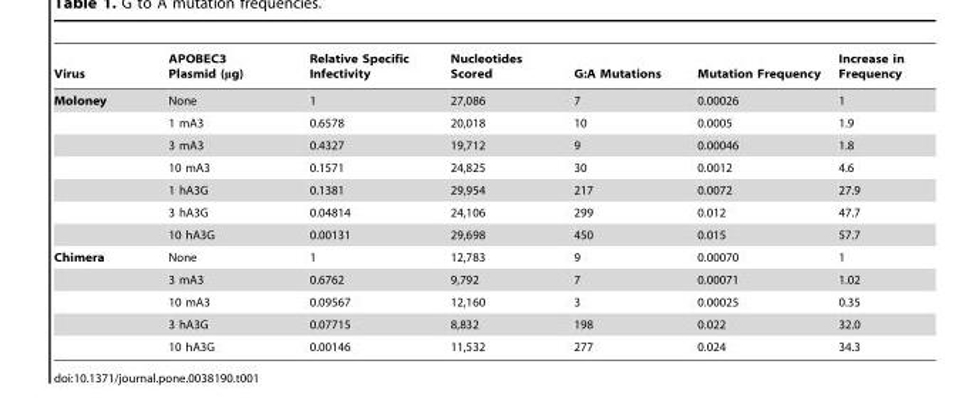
<table><thead><tr><td>Virus</td><td>APOBEC3 Plasmid (μg)</td><td>Relative Specific Infectivity</td><td>Nucleotides Scored</td><td>G:A Mutations</td><td>Mutation Frequency</td><td>Increase in Frequency</td></tr></thead><tbody><tr><td rowspan="7">Moloney</td><td>None</td><td>1</td><td>27,086</td><td>7</td><td>0.00026</td><td>1</td></tr><tr><td>1 mA3</td><td>0.6578</td><td>20,018</td><td>10</td><td>0.0005</td><td>1.9</td></tr><tr><td>3 mA3</td><td>0.4327</td><td>19,712</td><td>9</td><td>0.00046</td><td>1.8</td></tr><tr><td>10 mA3</td><td>0.1571</td><td>24,825</td><td>30</td><td>0.0012</td><td>4.6</td></tr><tr><td>1 hA3G</td><td>0.1381</td><td>29,954</td><td>217</td><td>0.0072</td><td>27.9</td></tr><tr><td>3 hA3G</td><td>0.04814</td><td>24,106</td><td>299</td><td>0.012</td><td>47.7</td></tr><tr><td>10 hA3G</td><td>0.00131</td><td>29,698</td><td>450</td><td>0.015</td><td>57.7</td></tr><tr><td rowspan="5">Chimera</td><td>None</td><td>1</td><td>12,783</td><td>9</td><td>0.00070</td><td>1</td></tr><tr><td>3 mA3</td><td>0.6762</td><td>9,792</td><td>7</td><td>0.00071</td><td>1.02</td></tr><tr><td>10 mA3</td><td>0.09567</td><td>12,160</td><td>3</td><td>0.00025</td><td>0.35</td></tr><tr><td>3 hA3G</td><td>0.07715</td><td>8,832</td><td>198</td><td>0.022</td><td>32.0</td></tr><tr><td>10 hA3G</td><td>0.00146</td><td>11,532</td><td>277</td><td>0.024</td><td>34.3</td></tr></tbody></table>